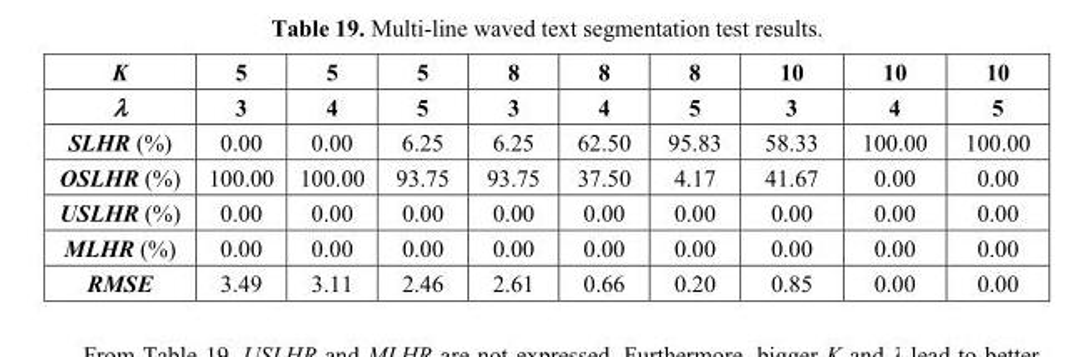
<table><thead><tr><td rowspan="2">K λ</td><td rowspan="2">5 3</td><td rowspan="2">5 4</td><td rowspan="2">5 5</td><td rowspan="2">8 3</td><td rowspan="2">8 4</td><td rowspan="2">8 5</td><td rowspan="2">10 3</td><td rowspan="2">10 4</td><td rowspan="2">10 5</td></tr><tr></tr></thead><tbody><tr><td>SLHR (%)</td><td>0.00</td><td>0.00</td><td>6.25</td><td>6.25</td><td>62.50</td><td>95.83</td><td>58.33</td><td>100.00</td><td>100.00</td></tr><tr><td>OSLHR (%)</td><td>100.00</td><td>100.00</td><td>93.75</td><td>93.75</td><td>37.50</td><td>4.17</td><td>41.67</td><td>0.00</td><td>0.00</td></tr><tr><td>USLHR (%)</td><td>0.00</td><td>0.00</td><td>0.00</td><td>0.00</td><td>0.00</td><td>0.00</td><td>0.00</td><td>0.00</td><td>0.00</td></tr><tr><td>MLHR (%)</td><td>0.00</td><td>0.00</td><td>0.00</td><td>0.00</td><td>0.00</td><td>0.00</td><td>0.00</td><td>0.00</td><td>0.00</td></tr><tr><td>RMSE</td><td>3.49</td><td>3.11</td><td>2.46</td><td>2.61</td><td>0.66</td><td>0.20</td><td>0.85</td><td>0.00</td><td>0.00</td></tr></tbody></table>